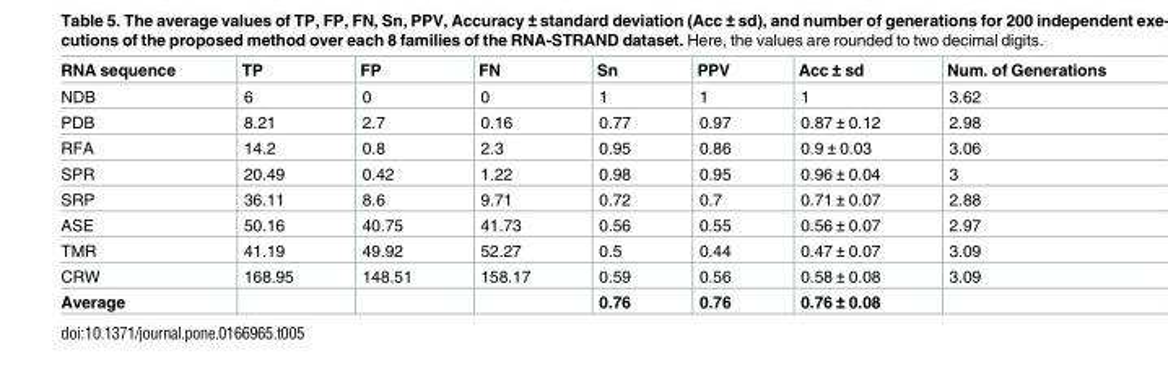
<table><thead><tr><td>RNA sequence</td><td>TP</td><td>FP</td><td>FN</td><td>Sn</td><td>PPV</td><td>Acc ± sd</td><td>Num. of Generations</td></tr></thead><tbody><tr><td>NDB</td><td>6</td><td>0</td><td>0</td><td>1</td><td>1</td><td>1</td><td>3.62</td></tr><tr><td>PDB</td><td>8.21</td><td>2.7</td><td>0.16</td><td>0.77</td><td>0.97</td><td>0.87 ± 0.12</td><td>2.98</td></tr><tr><td>RFA</td><td>14.2</td><td>0.8</td><td>2.3</td><td>0.95</td><td>0.86</td><td>0.9 ± 0.03</td><td>3.06</td></tr><tr><td>SPR</td><td>20.49</td><td>0.42</td><td>1.22</td><td>0.98</td><td>0.95</td><td>0.96 ± 0.04</td><td>3</td></tr><tr><td>SRP</td><td>36.11</td><td>8.6</td><td>9.71</td><td>0.72</td><td>0.7</td><td>0.71 ± 0.07</td><td>2.88</td></tr><tr><td>ASE</td><td>50.16</td><td>40.75</td><td>41.73</td><td>0.56</td><td>0.55</td><td>0.56 ± 0.07</td><td>2.97</td></tr><tr><td>TMR</td><td>41.19</td><td>49.92</td><td>52.27</td><td>0.5</td><td>0.44</td><td>0.47 ± 0.07</td><td>3.09</td></tr><tr><td>CRW</td><td>168.95</td><td>148.51</td><td>158.17</td><td>0.59</td><td>0.56</td><td>0.58 ± 0.08</td><td>3.09</td></tr><tr><td>Average</td><td></td><td></td><td></td><td>0.76</td><td>0.76</td><td>0.76 ± 0.08</td><td></td></tr></tbody></table>